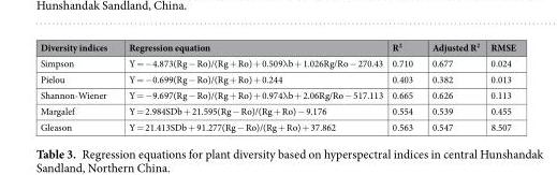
<table><thead><tr><td>Diversity indices</td><td>Regression equation</td><td>R<sup>2</sup></td><td>Adjusted R<sup>2</sup></td><td>RMSE</td></tr></thead><tbody><tr><td>Simpson</td><td>Y = −4.873(Rg − Ro)/(Rg + Ro) + 0.509λb + 1.026Rg/Ro − 270.43</td><td>0.710</td><td>0.677</td><td>0.024</td></tr><tr><td>Pielou</td><td>Y = −0.699(Rg − Ro)/(Rg + Ro) + 0.244</td><td>0.403</td><td>0.382</td><td>0.013</td></tr><tr><td>Shannon-Wiener</td><td>Y = −9.697(Rg − Ro)/(Rg + Ro) + 0.974λb + 2.06Rg/Ro − 517.113</td><td>0.665</td><td>0.626</td><td>0.113</td></tr><tr><td>Margalef</td><td>Y = 2.984SDb + 21.595(Rg − Ro)/(Rg + Ro) − 9.176</td><td>0.554</td><td>0.539</td><td>0.455</td></tr><tr><td>Gleason</td><td>Y = 21.413SDb + 91.277(Rg − Ro)/(Rg + Ro) + 37.862</td><td>0.563</td><td>0.547</td><td>8.507</td></tr></tbody></table>